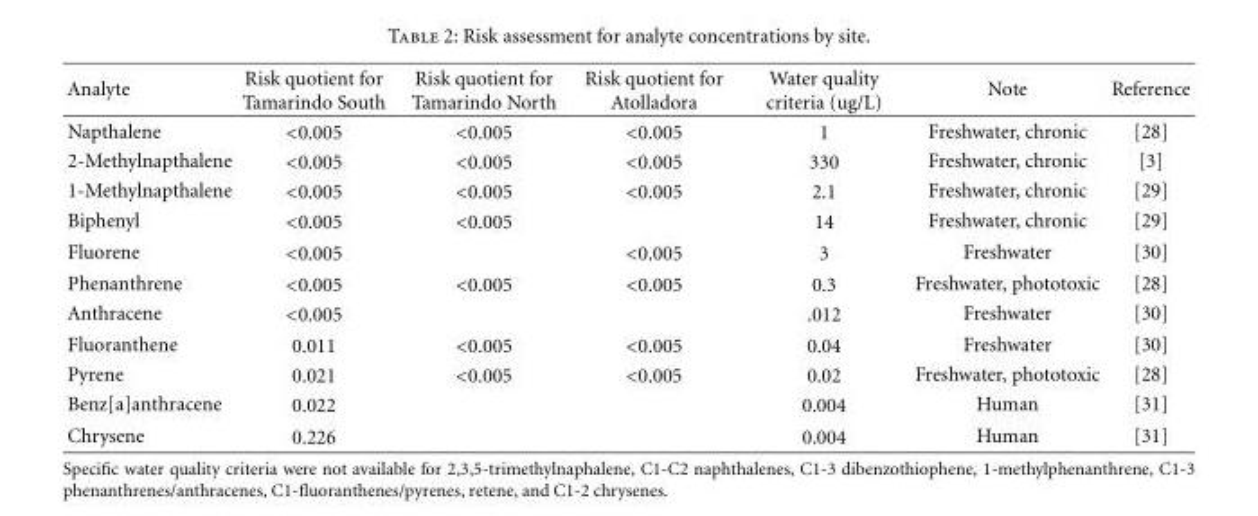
<table><thead><tr><td>Analyte</td><td>Risk quotient for Tamarindo South</td><td>Risk quotient for Tamarindo North</td><td>Risk quotient for Atolladora</td><td>Water quality criteria (ug/L)</td><td>Note</td><td>Reference</td></tr></thead><tbody><tr><td>Napthalene</td><td>&lt;0.005</td><td>&lt;0.005</td><td>&lt;0.005</td><td>1</td><td>Freshwater, chronic</td><td>[28]</td></tr><tr><td>2-Methylnapthalene</td><td>&lt;0.005</td><td>&lt;0.005</td><td>&lt;0.005</td><td>330</td><td>Freshwater, chronic</td><td>[3]</td></tr><tr><td>1-Methylnapthalene</td><td>&lt;0.005</td><td>&lt;0.005</td><td>&lt;0.005</td><td>2.1</td><td>Freshwater, chronic</td><td>[29]</td></tr><tr><td>Biphenyl</td><td>&lt;0.005</td><td>&lt;0.005</td><td></td><td>14</td><td>Freshwater, chronic</td><td>[29]</td></tr><tr><td>Fluorene</td><td>&lt;0.005</td><td></td><td>&lt;0.005</td><td>3</td><td>Freshwater</td><td>[30]</td></tr><tr><td>Phenanthrene</td><td>&lt;0.005</td><td>&lt;0.005</td><td>&lt;0.005</td><td>0.3</td><td>Freshwater, phototoxic</td><td>[28]</td></tr><tr><td>Anthracene</td><td>&lt;0.005</td><td></td><td></td><td>.012</td><td>Freshwater</td><td>[30]</td></tr><tr><td>Fluoranthene</td><td>0.011</td><td>&lt;0.005</td><td>&lt;0.005</td><td>0.04</td><td>Freshwater</td><td>[30]</td></tr><tr><td>Pyrene</td><td>0.021</td><td>&lt;0.005</td><td>&lt;0.005</td><td>0.02</td><td>Freshwater, phototoxic</td><td>[28]</td></tr><tr><td>Benz[a]anthracene</td><td>0.022</td><td></td><td></td><td>0.004</td><td>Human</td><td>[31]</td></tr><tr><td>Chrysene</td><td>0.226</td><td></td><td></td><td>0.004</td><td>Human</td><td>[31]</td></tr></tbody></table>